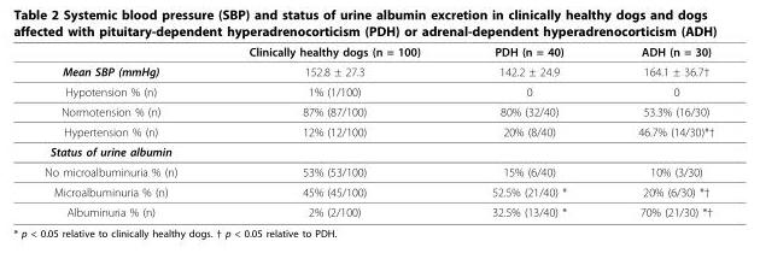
<table><thead><tr><td></td><td>Clinically healthy dogs (n = 100)</td><td>PDH (n = 40)</td><td>ADH (n = 30)</td></tr></thead><tbody><tr><td>Mean SBP (mmHg)</td><td>152.8 ± 27.3</td><td>142.2 ± 24.9</td><td>164.1 ± 36.7†</td></tr><tr><td>Hypotension % (n)</td><td>1% (1/100)</td><td>0</td><td>0</td></tr><tr><td>Normotension % (n)</td><td>87% (87/100)</td><td>80% (32/40)</td><td>53.3% (16/30)</td></tr><tr><td>Hypertension % (n)</td><td>12% (12/100)</td><td>20% (8/40)</td><td>46.7% (14/30)*†</td></tr><tr><td colspan="4">Status of urine albumin</td></tr><tr><td>No microalbuminuria % (n)</td><td>53% (53/100)</td><td>15% (6/40)</td><td>10% (3/30)</td></tr><tr><td>Microalbuminuria % (n)</td><td>45% (45/100)</td><td>52.5% (21/40) *</td><td>20% (6/30) *†</td></tr><tr><td>Albuminuria % (n)</td><td>2% (2/100)</td><td>32.5% (13/40) *</td><td>70% (21/30) *†</td></tr></tbody></table>